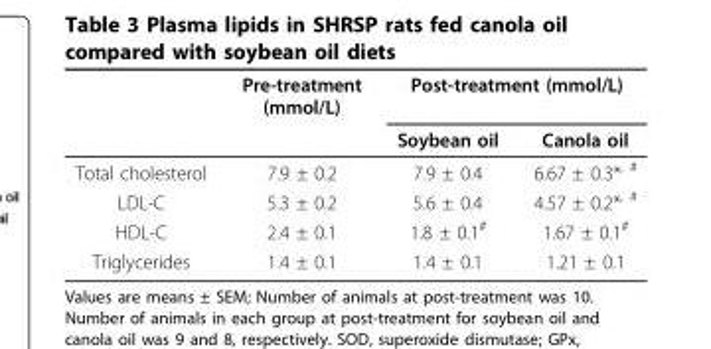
<table><thead><tr><td rowspan="2"></td><td rowspan="2">Pre-treatment (mmol/L)</td><td colspan="2">Post-treatment (mmol/L)</td></tr><tr><td>Soybean oil</td><td>Canola oil</td></tr></thead><tbody><tr><td>Total cholesterol</td><td>7.9 ± 0.2</td><td>7.9 ± 0.4</td><td>6.67 ± 0.3*<sup>, #</sup></td></tr><tr><td>LDL-C</td><td>5.3 ± 0.2</td><td>5.6 ± 0.4</td><td>4.57 ± 0.2*<sup>, #</sup></td></tr><tr><td>HDL-C</td><td>2.4 ± 0.1</td><td>1.8 ± 0.1<sup>#</sup></td><td>1.67 ± 0.1<sup>#</sup></td></tr><tr><td>Triglycerides</td><td>1.4 ± 0.1</td><td>1.4 ± 0.1</td><td>1.21 ± 0.1</td></tr></tbody></table>